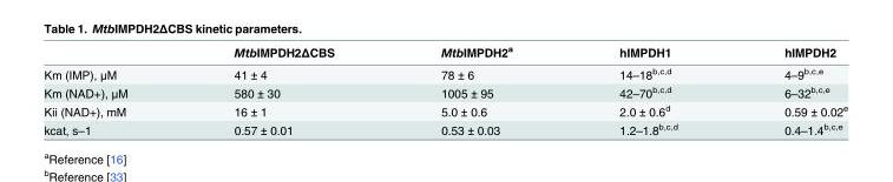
<table><thead><tr><td></td><td>MtbIMPDH2ΔCBS</td><td>MtbIMPDH2<sup>a</sup></td><td>hIMPDH1</td><td>hIMPDH2</td></tr></thead><tbody><tr><td>Km (IMP), μM</td><td>41 ± 4</td><td>78 ± 6</td><td>14–18<sup>b,c,d</sup></td><td>4–9<sup>b,c,e</sup></td></tr><tr><td>Km (NAD+), μM</td><td>580 ± 30</td><td>1005 ± 95</td><td>42–70<sup>b,c,d</sup></td><td>6–32<sup>b,c,e</sup></td></tr><tr><td>Kii (NAD+), mM</td><td>16 ± 1</td><td>5.0 ± 0.6</td><td>2.0 ± 0.6<sup>d</sup></td><td>0.59 ± 0.02<sup>e</sup></td></tr><tr><td>kcat, s–1</td><td>0.57 ± 0.01</td><td>0.53 ± 0.03</td><td>1.2–1.8<sup>b,c,d</sup></td><td>0.4–1.4<sup>b,c,e</sup></td></tr></tbody></table>